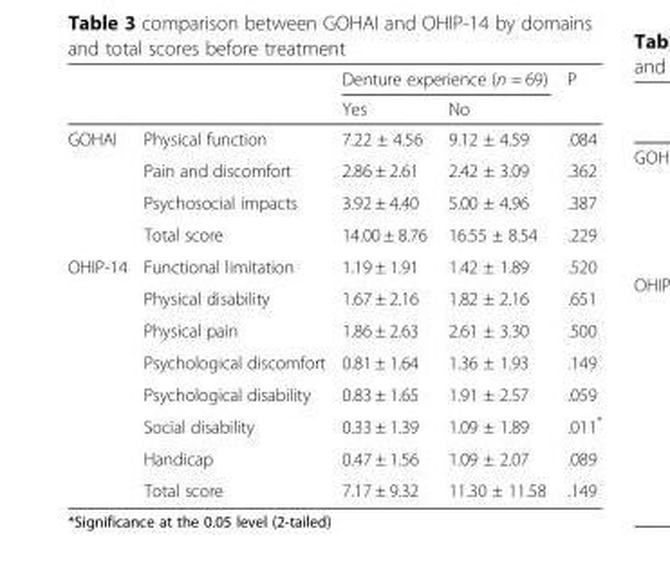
<table><thead><tr><td rowspan="2"></td><td rowspan="2"></td><td colspan="2">Denture experience (n = 69)</td><td rowspan="2">P</td></tr><tr><td>Yes</td><td>No</td></tr></thead><tbody><tr><td rowspan="4">GOHAI</td><td>Physical function</td><td>7.22 ± 4.56</td><td>9.12 ± 4.59</td><td>.084</td></tr><tr><td>Pain and discomfort</td><td>2.86 ± 2.61</td><td>2.42 ± 3.09</td><td>.362</td></tr><tr><td>Psychosocial impacts</td><td>3.92 ± 4.40</td><td>5.00 ± 4.96</td><td>.387</td></tr><tr><td>Total score</td><td>14.00 ± 8.76</td><td>16.55 ± 8.54</td><td>.229</td></tr><tr><td rowspan="8">OHIP-14</td><td>Functional limitation</td><td>1.19 ± 1.91</td><td>1.42 ± 1.89</td><td>.520</td></tr><tr><td>Physical disability</td><td>1.67 ± 2.16</td><td>1.82 ± 2.16</td><td>.651</td></tr><tr><td>Physical pain</td><td>1.86 ± 2.63</td><td>2.61 ± 3.30</td><td>.500</td></tr><tr><td>Psychological discomfort</td><td>0.81 ± 1.64</td><td>1.36 ± 1.93</td><td>.149</td></tr><tr><td>Psychological disability</td><td>0.83 ± 1.65</td><td>1.91 ± 2.57</td><td>.059</td></tr><tr><td>Social disability</td><td>0.33 ± 1.39</td><td>1.09 ± 1.89</td><td>.011*</td></tr><tr><td>Handicap</td><td>0.47 ± 1.56</td><td>1.09 ± 2.07</td><td>.089</td></tr><tr><td>Total score</td><td>7.17 ± 9.32</td><td>11.30 ± 11.58</td><td>.149</td></tr></tbody></table>